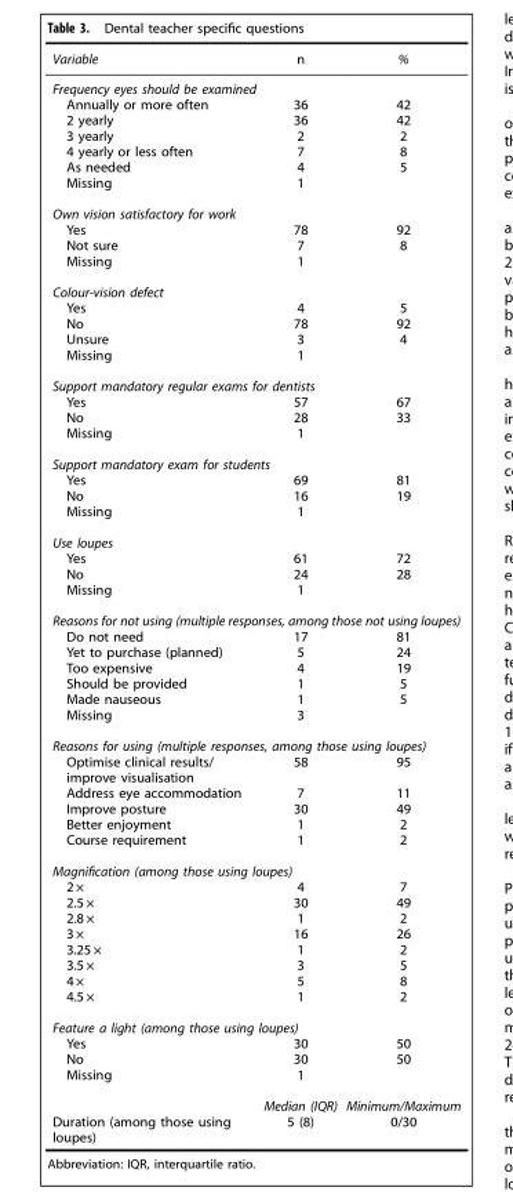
<table><thead><tr><td>Variable</td><td>n</td><td>%</td></tr></thead><tbody><tr><td colspan="3">Frequency eyes should be examined</td></tr><tr><td>Annually or more often</td><td>36</td><td>42</td></tr><tr><td>2 yearly</td><td>36</td><td>42</td></tr><tr><td>3 yearly</td><td>2</td><td>2</td></tr><tr><td>4 yearly or less often</td><td>7</td><td>8</td></tr><tr><td>As needed</td><td>4</td><td>5</td></tr><tr><td>Missing</td><td>1</td><td></td></tr><tr><td colspan="3">Own vision satisfactory for work</td></tr><tr><td>Yes</td><td>78</td><td>92</td></tr><tr><td>Not sure</td><td>7</td><td>8</td></tr><tr><td>Missing</td><td>1</td><td></td></tr><tr><td colspan="3">Colour-vision defect</td></tr><tr><td>Yes</td><td>4</td><td>5</td></tr><tr><td>No</td><td>78</td><td>92</td></tr><tr><td>Unsure</td><td>3</td><td>4</td></tr><tr><td>Missing</td><td>1</td><td></td></tr><tr><td colspan="3">Support mandatory regular exams for dentists</td></tr><tr><td>Yes</td><td>57</td><td>67</td></tr><tr><td>No</td><td>28</td><td>33</td></tr><tr><td>Missing</td><td>1</td><td></td></tr><tr><td colspan="3">Support mandatory exam for students</td></tr><tr><td>Yes</td><td>69</td><td>81</td></tr><tr><td>No</td><td>16</td><td>19</td></tr><tr><td>Missing</td><td>1</td><td></td></tr><tr><td colspan="3">Use loupes</td></tr><tr><td>Yes</td><td>61</td><td>72</td></tr><tr><td>No</td><td>24</td><td>28</td></tr><tr><td>Missing</td><td>1</td><td></td></tr><tr><td colspan="3">Reasons for not using (multiple responses, among those not using loupes)</td></tr><tr><td>Do not need</td><td>17</td><td>81</td></tr><tr><td>Yet to purchase (planned)</td><td>5</td><td>24</td></tr><tr><td>Too expensive</td><td>4</td><td>19</td></tr><tr><td>Should be provided</td><td>1</td><td>5</td></tr><tr><td>Made nauseous</td><td>1</td><td>5</td></tr><tr><td>Missing</td><td>3</td><td></td></tr><tr><td colspan="3">Reasons for using (multiple responses, among those using loupes)</td></tr><tr><td>Optimise clinical results/ improve visualisation</td><td>58</td><td>95</td></tr><tr><td>Address eye accommodation</td><td>7</td><td>11</td></tr><tr><td>Improve posture</td><td>30</td><td>49</td></tr><tr><td>Better enjoyment</td><td>1</td><td>2</td></tr><tr><td>Course requirement</td><td>1</td><td>2</td></tr><tr><td colspan="3">Magnification (among those using loupes)</td></tr><tr><td>2 ×</td><td>4</td><td>7</td></tr><tr><td>2.5 ×</td><td>30</td><td>49</td></tr><tr><td>2.8 ×</td><td>1</td><td>2</td></tr><tr><td>3 ×</td><td>16</td><td>26</td></tr><tr><td>3.25 ×</td><td>1</td><td>2</td></tr><tr><td>3.5 ×</td><td>3</td><td>5</td></tr><tr><td>4 ×</td><td>5</td><td>8</td></tr><tr><td>4.5 ×</td><td>1</td><td>2</td></tr><tr><td colspan="3">Feature a light (among those using loupes)</td></tr><tr><td>Yes</td><td>30</td><td>50</td></tr><tr><td>No</td><td>30</td><td>50</td></tr><tr><td rowspan="2">Missing</td><td>1</td><td></td></tr><tr><td>Median (IQR)</td><td>Minimum/Maximum</td></tr><tr><td>Duration (among those using loupes)</td><td>5 (8)</td><td>0/30</td></tr></tbody></table>